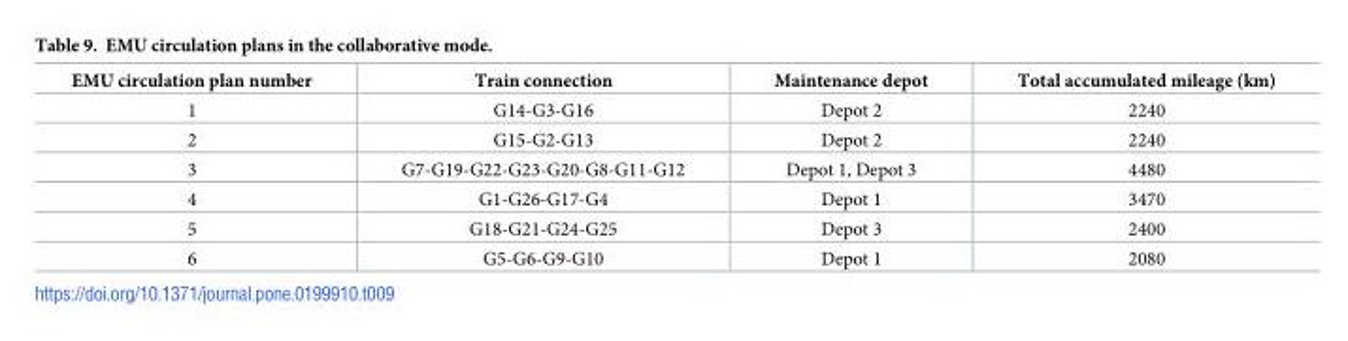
<table><thead><tr><td>EMU circulation plan number</td><td>Train connection</td><td>Maintenance depot</td><td>Total accumulated mileage (km)</td></tr></thead><tbody><tr><td>1</td><td>G14-G3-G16</td><td>Depot 2</td><td>2240</td></tr><tr><td>2</td><td>G15-G2-G13</td><td>Depot 2</td><td>2240</td></tr><tr><td>3</td><td>G7-G19-G22-G23-G20-G8-G11-G12</td><td>Depot 1, Depot 3</td><td>4480</td></tr><tr><td>4</td><td>G1-G26-G17-G4</td><td>Depot 1</td><td>3470</td></tr><tr><td>5</td><td>G18-G21-G24-G25</td><td>Depot 3</td><td>2400</td></tr><tr><td>6</td><td>G5-G6-G9-G10</td><td>Depot 1</td><td>2080</td></tr></tbody></table>